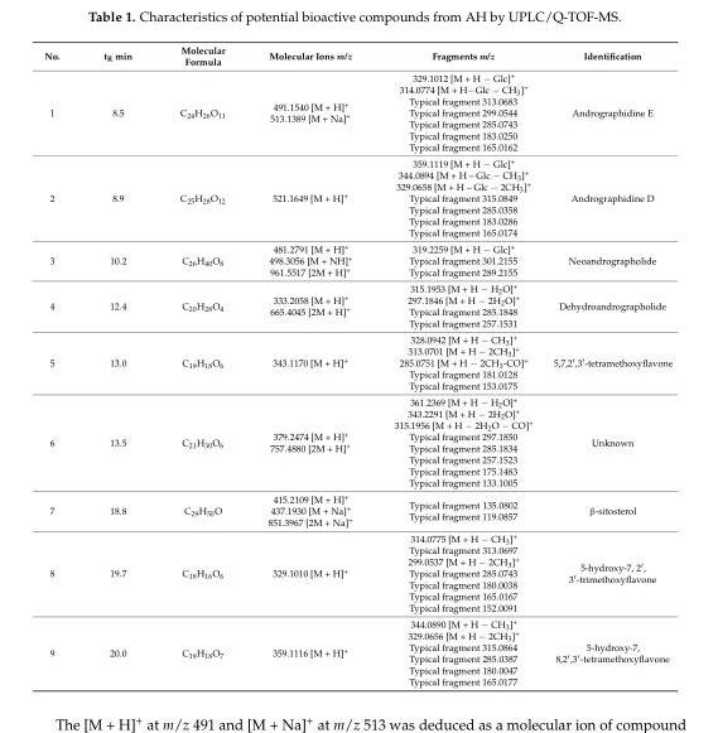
<table><thead><tr><td>No.</td><td>t<sub>R</sub> min</td><td>Molecular Formula</td><td>Molecular Ions m/z</td><td>Fragments m/z</td><td>Identification</td></tr></thead><tbody><tr><td>1</td><td>8.5</td><td>C<sub>24</sub>H<sub>26</sub>O<sub>11</sub></td><td>491.1540 [M + H]<sup>+</sup> 513.1389 [M + Na]<sup>+</sup></td><td>329.1012 [M + H − Glc]<sup>+</sup> 314.0774 [M + H−Glc − CH<sub>3</sub>]<sup>+</sup> Typical fragment 313.0683 Typical fragment 299.0544 Typical fragment 285.0743 Typical fragment 183.0250 Typical fragment 165.0162</td><td>Andrographidine E</td></tr><tr><td>2</td><td>8.9</td><td>C<sub>25</sub>H<sub>28</sub>O<sub>12</sub></td><td>521.1649 [M + H]<sup>+</sup></td><td>359.1119 [M + H − Glc]<sup>+</sup> 344.0894 [M + H – Glc − CH<sub>3</sub>]<sup>+</sup> 329.0658 [M + H – Glc − 2CH<sub>3</sub>]<sup>+</sup> Typical fragment 315.0849 Typical fragment 285.0358 Typical fragment 183.0286 Typical fragment 165.0174</td><td>Andrographidine D</td></tr><tr><td>3</td><td>10.2</td><td>C<sub>26</sub>H<sub>40</sub>O<sub>8</sub></td><td>481.2791 [M + H]<sup>+</sup> 498.3056 [M + NH]<sup>+</sup> 961.5517 [2M + H]<sup>+</sup></td><td>319.2259 [M + H − Glc]<sup>+</sup> Typical fragment 301.2155 Typical fragment 289.2155</td><td>Neoandrographolide</td></tr><tr><td>4</td><td>12.4</td><td>C<sub>20</sub>H<sub>28</sub>O<sub>4</sub></td><td>333.2058 [M + H]<sup>+</sup> 665.4045 [2M + H]<sup>+</sup></td><td>315.1953 [M + H − H<sub>2</sub>O]<sup>+</sup> 297.1846 [M + H − 2H<sub>2</sub>O]<sup>+</sup> Typical fragment 285.1848 Typical fragment 257.1531</td><td>Dehydroandrographolide</td></tr><tr><td>5</td><td>13.0</td><td>C<sub>19</sub>H<sub>18</sub>O<sub>6</sub></td><td>343.1170 [M + H]<sup>+</sup></td><td>328.0942 [M + H − CH<sub>3</sub>]<sup>+</sup> 313.0701 [M + H − 2CH<sub>3</sub>]<sup>+</sup> 285.0751 [M + H − 2CH<sub>3</sub>-CO]<sup>+</sup> Typical fragment 181.0128 Typical fragment 153.0175</td><td>5,7,2′,3′-tetramethoxyflavone</td></tr><tr><td>6</td><td>13.5</td><td>C<sub>21</sub>H<sub>30</sub>O<sub>6</sub></td><td>379.2474 [M + H]<sup>+</sup> 757.4880 [2M + H]<sup>+</sup></td><td>361.2369 [M + H − H<sub>2</sub>O]<sup>+</sup> 343.2291 [M + H − 2H<sub>2</sub>O]<sup>+</sup> 315.1956 [M + H − 2H<sub>2</sub>O − CO]<sup>+</sup> Typical fragment 297.1850 Typical fragment 285.1834 Typical fragment 257.1523 Typical fragment 175.1483 Typical fragment 133.1005</td><td>Unknown</td></tr><tr><td>7</td><td>18.8</td><td>C<sub>29</sub>H<sub>50</sub>O</td><td>415.2109 [M + H]<sup>+</sup> 437.1930 [M + Na]<sup>+</sup> 851.3967 [2M + Na]<sup>+</sup></td><td>Typical fragment 135.0802 Typical fragment 119.0857</td><td>β-sitosterol</td></tr><tr><td>8</td><td>19.7</td><td>C<sub>18</sub>H<sub>16</sub>O<sub>6</sub></td><td>329.1010 [M + H]<sup>+</sup></td><td>314.0775 [M + H − CH<sub>3</sub>]<sup>+</sup> Typical fragment 313.0697 299.0537 [M + H − 2CH<sub>3</sub>]<sup>+</sup> Typical fragment 285.0743 Typical fragment 180.0038 Typical fragment 165.0167 Typical fragment 152.0091</td><td>5-hydroxy-7, 2′, 3′-trimethoxyflavone</td></tr><tr><td>9</td><td>20.0</td><td>C<sub>19</sub>H<sub>18</sub>O<sub>7</sub></td><td>359.1116 [M + H]<sup>+</sup></td><td>344.0890 [M + H − CH<sub>3</sub>]<sup>+</sup> 329.0656 [M + H − 2CH<sub>3</sub>]<sup>+</sup> Typical fragment 315.0864 Typical fragment 285.0387 Typical fragment 180.0047 Typical fragment 165.0177</td><td>5-hydroxy-7, 8,2′,3′-tetramethoxyflavone</td></tr></tbody></table>